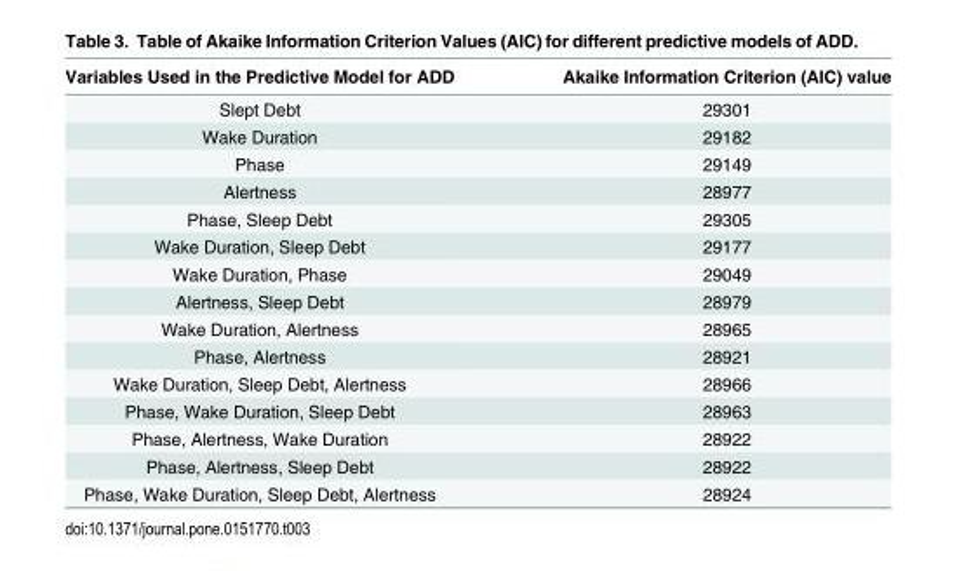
<table><thead><tr><td>Variables Used in the Predictive Model for ADD</td><td>Akaike Information Criterion (AIC) value</td></tr></thead><tbody><tr><td>Slept Debt</td><td>29301</td></tr><tr><td>Wake Duration</td><td>29182</td></tr><tr><td>Phase</td><td>29149</td></tr><tr><td>Alertness</td><td>28977</td></tr><tr><td>Phase, Sleep Debt</td><td>29305</td></tr><tr><td>Wake Duration, Sleep Debt</td><td>29177</td></tr><tr><td>Wake Duration, Phase</td><td>29049</td></tr><tr><td>Alertness, Sleep Debt</td><td>28979</td></tr><tr><td>Wake Duration, Alertness</td><td>28965</td></tr><tr><td>Phase, Alertness</td><td>28921</td></tr><tr><td>Wake Duration, Sleep Debt, Alertness</td><td>28966</td></tr><tr><td>Phase, Wake Duration, Sleep Debt</td><td>28963</td></tr><tr><td>Phase, Alertness, Wake Duration</td><td>28922</td></tr><tr><td>Phase, Alertness, Sleep Debt</td><td>28922</td></tr><tr><td>Phase, Wake Duration, Sleep Debt, Alertness</td><td>28924</td></tr></tbody></table>